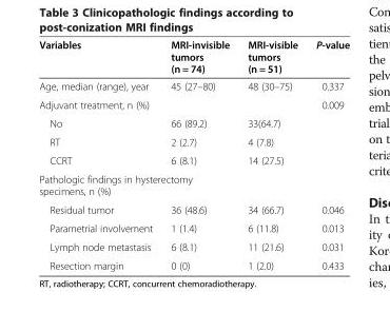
<table><thead><tr><td>Variables</td><td>MRI-invisible tumors (n = 74)</td><td>MRI-visible tumors (n = 51)</td><td>P-value</td></tr></thead><tbody><tr><td>Age, median (range), year</td><td>45 (27–80)</td><td>48 (30–75)</td><td>0.337</td></tr><tr><td>Adjuvant treatment, n (%)</td><td></td><td></td><td>0.009</td></tr><tr><td>No</td><td>66 (89.2)</td><td>33(64.7)</td><td></td></tr><tr><td>RT</td><td>2 (2.7)</td><td>4 (7.8)</td><td></td></tr><tr><td>CCRT</td><td>6 (8.1)</td><td>14 (27.5)</td><td></td></tr><tr><td colspan="4">Pathologic findings in hysterectomy specimens, n (%)</td></tr><tr><td>Residual tumor</td><td>36 (48.6)</td><td>34 (66.7)</td><td>0.046</td></tr><tr><td>Parametrial involvement</td><td>1 (1.4)</td><td>6 (11.8)</td><td>0.013</td></tr><tr><td>Lymph node metastasis</td><td>6 (8.1)</td><td>11 (21.6)</td><td>0.031</td></tr><tr><td>Resection margin</td><td>0 (0)</td><td>1 (2.0)</td><td>0.433</td></tr></tbody></table>